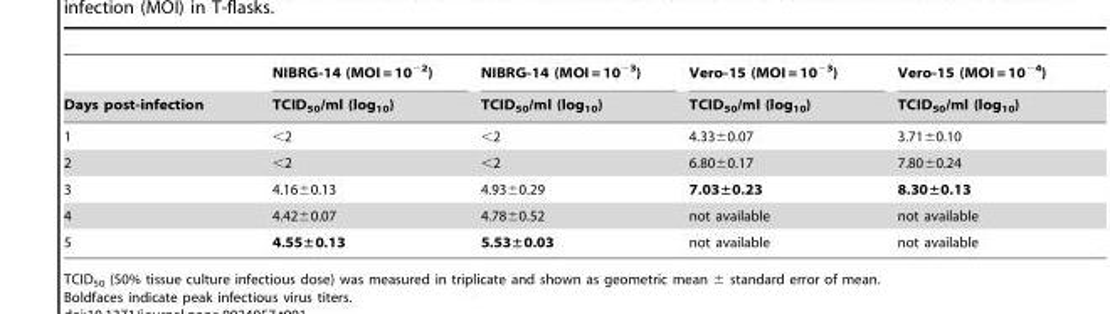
<table><thead><tr><td rowspan="2">Days post-infection</td><td rowspan="2">NIBRG-14 (MOI = 10<sup>−2</sup>) TCID<sub>50</sub>/ml (log<sub>10</sub>)</td><td rowspan="2">NIBRG-14 (MOI = 10<sup>−3</sup>) TCID<sub>50</sub>/ml (log<sub>10</sub>)</td><td rowspan="2">Vero-15 (MOI = 10<sup>−3</sup>) TCID<sub>50</sub>/ml (log<sub>10</sub>)</td><td rowspan="2">Vero-15 (MOI = 10<sup>−4</sup>) TCID<sub>50</sub>/ml (log<sub>10</sub>)</td></tr><tr></tr></thead><tbody><tr><td>1</td><td>&lt;2</td><td>&lt;2</td><td>4.33±0.07</td><td>3.71±0.10</td></tr><tr><td>2</td><td>&lt;2</td><td>&lt;2</td><td>6.80±0.17</td><td>7.80±0.24</td></tr><tr><td>3</td><td>4.16±0.13</td><td>4.93±0.29</td><td>7.03±0.23</td><td>8.30±0.13</td></tr><tr><td>4</td><td>4.42±0.07</td><td>4.78±0.52</td><td>not available</td><td>not available</td></tr><tr><td>5</td><td>4.55±0.13</td><td>5.53±0.03</td><td>not available</td><td>not available</td></tr></tbody></table>